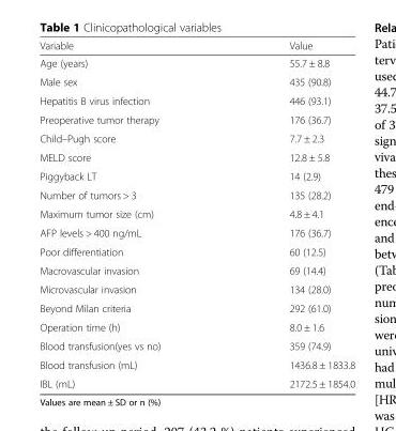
<table><thead><tr><td>Variable</td><td>Value</td></tr></thead><tbody><tr><td>Age (years)</td><td>55.7 ± 8.8</td></tr><tr><td>Male sex</td><td>435 (90.8)</td></tr><tr><td>Hepatitis B virus infection</td><td>446 (93.1)</td></tr><tr><td>Preoperative tumor therapy</td><td>176 (36.7)</td></tr><tr><td>Child–Pugh score</td><td>7.7 ± 2.3</td></tr><tr><td>MELD score</td><td>12.8 ± 5.8</td></tr><tr><td>Piggyback LT</td><td>14 (2.9)</td></tr><tr><td>Number of tumors &gt; 3</td><td>135 (28.2)</td></tr><tr><td>Maximum tumor size (cm)</td><td>4.8 ± 4.1</td></tr><tr><td>AFP levels &gt; 400 ng/mL</td><td>176 (36.7)</td></tr><tr><td>Poor differentiation</td><td>60 (12.5)</td></tr><tr><td>Macrovascular invasion</td><td>69 (14.4)</td></tr><tr><td>Microvascular invasion</td><td>134 (28.0)</td></tr><tr><td>Beyond Milan criteria</td><td>292 (61.0)</td></tr><tr><td>Operation time (h)</td><td>8.0 ± 1.6</td></tr><tr><td>Blood transfusion(yes vs no)</td><td>359 (74.9)</td></tr><tr><td>Blood transfusion (mL)</td><td>1436.8 ± 1833.8</td></tr><tr><td>IBL (mL)</td><td>2172.5 ± 1854.0</td></tr></tbody></table>